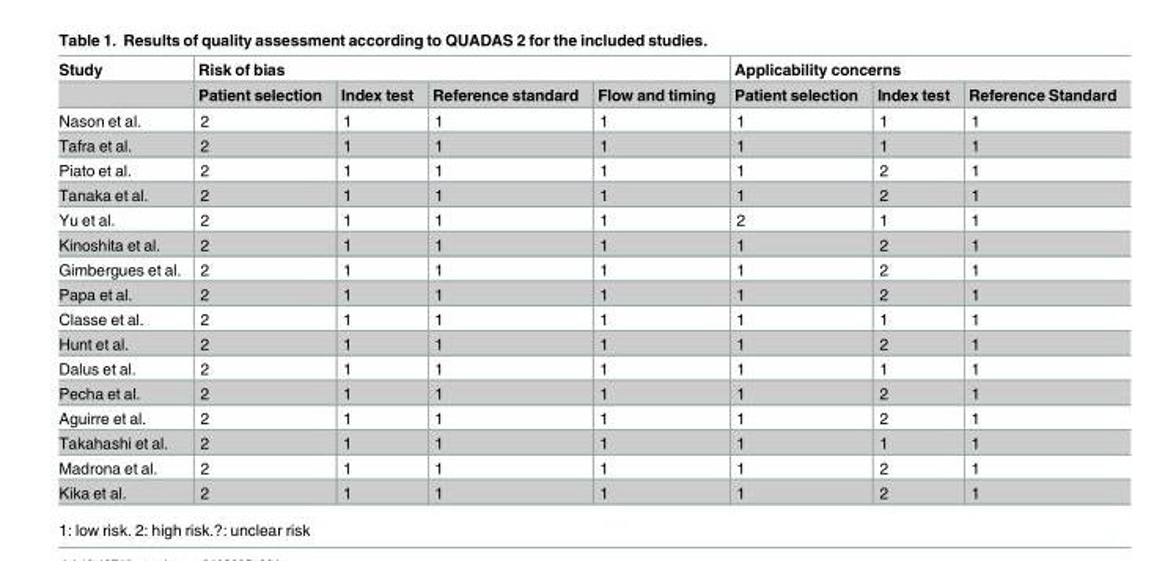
<table><thead><tr><td rowspan="2">Study</td><td colspan="4">Risk of bias</td><td colspan="3">Applicability concerns</td></tr><tr><td>Patient selection</td><td>Index test</td><td>Reference standard</td><td>Flow and timing</td><td>Patient selection</td><td>Index test</td><td>Reference Standard</td></tr></thead><tbody><tr><td>Nason et al.</td><td>2</td><td>1</td><td>1</td><td>1</td><td>1</td><td>1</td><td>1</td></tr><tr><td>Tafra et al.</td><td>2</td><td>1</td><td>1</td><td>1</td><td>1</td><td>1</td><td>1</td></tr><tr><td>Piato et al.</td><td>2</td><td>1</td><td>1</td><td>1</td><td>1</td><td>2</td><td>1</td></tr><tr><td>Tanaka et al.</td><td>2</td><td>1</td><td>1</td><td>1</td><td>1</td><td>2</td><td>1</td></tr><tr><td>Yu et al.</td><td>2</td><td>1</td><td>1</td><td>1</td><td>2</td><td>1</td><td>1</td></tr><tr><td>Kinoshita et al.</td><td>2</td><td>1</td><td>1</td><td>1</td><td>1</td><td>2</td><td>1</td></tr><tr><td>Gimbergues et al.</td><td>2</td><td>1</td><td>1</td><td>1</td><td>1</td><td>2</td><td>1</td></tr><tr><td>Papa et al.</td><td>2</td><td>1</td><td>1</td><td>1</td><td>1</td><td>2</td><td>1</td></tr><tr><td>Classe et al.</td><td>2</td><td>1</td><td>1</td><td>1</td><td>1</td><td>1</td><td>1</td></tr><tr><td>Hunt et al.</td><td>2</td><td>1</td><td>1</td><td>1</td><td>1</td><td>2</td><td>1</td></tr><tr><td>Dalus et al.</td><td>2</td><td>1</td><td>1</td><td>1</td><td>1</td><td>1</td><td>1</td></tr><tr><td>Pecha et al.</td><td>2</td><td>1</td><td>1</td><td>1</td><td>1</td><td>2</td><td>1</td></tr><tr><td>Aguirre et al.</td><td>2</td><td>1</td><td>1</td><td>1</td><td>1</td><td>2</td><td>1</td></tr><tr><td>Takahashi et al.</td><td>2</td><td>1</td><td>1</td><td>1</td><td>1</td><td>1</td><td>1</td></tr><tr><td>Madrona et al.</td><td>2</td><td>1</td><td>1</td><td>1</td><td>1</td><td>2</td><td>1</td></tr><tr><td>Kika et al.</td><td>2</td><td>1</td><td>1</td><td>1</td><td>1</td><td>2</td><td>1</td></tr></tbody></table>